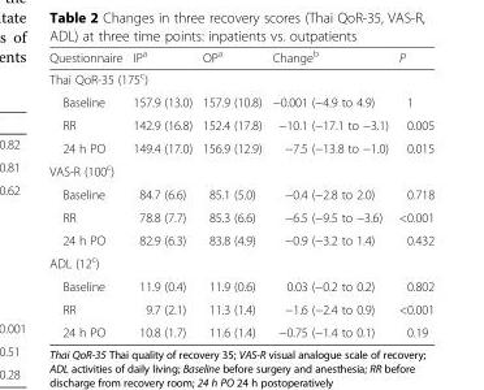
<table><thead><tr><td>Questionnaire</td><td>IP<sup>a</sup></td><td>OP<sup>a</sup></td><td>Change<sup>b</sup></td><td>P</td></tr></thead><tbody><tr><td colspan="5">Thai QoR-35 (175<sup>c</sup>)</td></tr><tr><td>Baseline</td><td>157.9 (13.0)</td><td>157.9 (10.8)</td><td>−0.001 (−4.9 to 4.9)</td><td>1</td></tr><tr><td>RR</td><td>142.9 (16.8)</td><td>152.4 (17.8)</td><td>−10.1 (−17.1 to −3.1)</td><td>0.005</td></tr><tr><td>24 h PO</td><td>149.4 (17.0)</td><td>156.9 (12.9)</td><td>−7.5 (−13.8 to −1.0)</td><td>0.015</td></tr><tr><td colspan="5">VAS-R (100<sup>c</sup>)</td></tr><tr><td>Baseline</td><td>84.7 (6.6)</td><td>85.1 (5.0)</td><td>−0.4 (−2.8 to 2.0)</td><td>0.718</td></tr><tr><td>RR</td><td>78.8 (7.7)</td><td>85.3 (6.6)</td><td>−6.5 (−9.5 to −3.6)</td><td>&lt;0.001</td></tr><tr><td>24 h PO</td><td>82.9 (6.3)</td><td>83.8 (4.9)</td><td>−0.9 (−3.2 to 1.4)</td><td>0.432</td></tr><tr><td colspan="5">ADL (12<sup>c</sup>)</td></tr><tr><td>Baseline</td><td>11.9 (0.4)</td><td>11.9 (0.6)</td><td>0.03 (−0.2 to 0.2)</td><td>0.802</td></tr><tr><td>RR</td><td>9.7 (2.1)</td><td>11.3 (1.4)</td><td>−1.6 (−2.4 to 0.9)</td><td>&lt;0.001</td></tr><tr><td>24 h PO</td><td>10.8 (1.7)</td><td>11.6 (1.4)</td><td>−0.75 (−1.4 to 0.1)</td><td>0.19</td></tr></tbody></table>